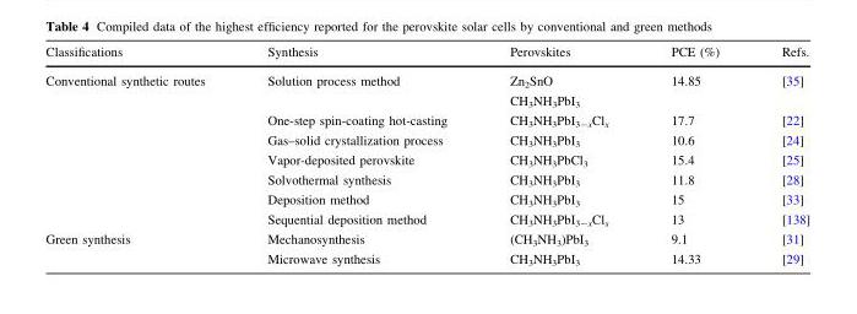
<table><thead><tr><td>Classifications</td><td>Synthesis</td><td>Perovskites</td><td>PCE (%)</td><td>Refs.</td></tr></thead><tbody><tr><td rowspan="7">Conventional synthetic routes</td><td>Solution process method</td><td>Zn<sub>2</sub>SnO CH<sub>3</sub>NH<sub>3</sub>PbI<sub>3</sub></td><td>14.85</td><td>[35]</td></tr><tr><td>One-step spin-coating hot-casting</td><td>CH<sub>3</sub>NH<sub>3</sub>PbI<sub>3-x</sub>Cl<sub>x</sub></td><td>17.7</td><td>[22]</td></tr><tr><td>Gas–solid crystallization process</td><td>CH<sub>3</sub>NH<sub>3</sub>PbI<sub>3</sub></td><td>10.6</td><td>[24]</td></tr><tr><td>Vapor-deposited perovskite</td><td>CH<sub>3</sub>NH<sub>3</sub>PbCl<sub>3</sub></td><td>15.4</td><td>[25]</td></tr><tr><td>Solvothermal synthesis</td><td>CH<sub>3</sub>NH<sub>3</sub>PbI<sub>3</sub></td><td>11.8</td><td>[28]</td></tr><tr><td>Deposition method</td><td>CH<sub>3</sub>NH<sub>3</sub>PbI<sub>3</sub></td><td>15</td><td>[33]</td></tr><tr><td>Sequential deposition method</td><td>CH<sub>3</sub>NH<sub>3</sub>PbI<sub>3-x</sub>Cl<sub>x</sub></td><td>13</td><td>[138]</td></tr><tr><td rowspan="2">Green synthesis</td><td>Mechanosynthesis</td><td>(CH<sub>3</sub>NH<sub>3</sub>)PbI<sub>3</sub></td><td>9.1</td><td>[31]</td></tr><tr><td>Microwave synthesis</td><td>CH<sub>3</sub>NH<sub>3</sub>PbI<sub>3</sub></td><td>14.33</td><td>[29]</td></tr></tbody></table>